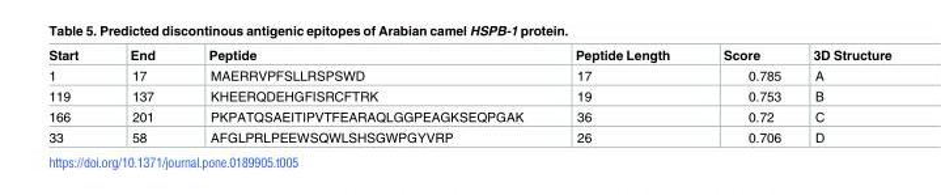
<table><thead><tr><td>Start</td><td>End</td><td>Peptide</td><td>Peptide Length</td><td>Score</td><td>3D Structure</td></tr></thead><tbody><tr><td>1</td><td>17</td><td>MAERRVPFSLLRSPSWD</td><td>17</td><td>0.785</td><td>A</td></tr><tr><td>119</td><td>137</td><td>KHEERQDEHGFISRCFTRK</td><td>19</td><td>0.753</td><td>B</td></tr><tr><td>166</td><td>201</td><td>PKPATQSAEITIPVTFEARAQLGGPEAGKSEQPGAK</td><td>36</td><td>0.72</td><td>C</td></tr><tr><td>33</td><td>58</td><td>AFGLPRLPEEWSQWLSHSGWPGYVRP</td><td>26</td><td>0.706</td><td>D</td></tr></tbody></table>